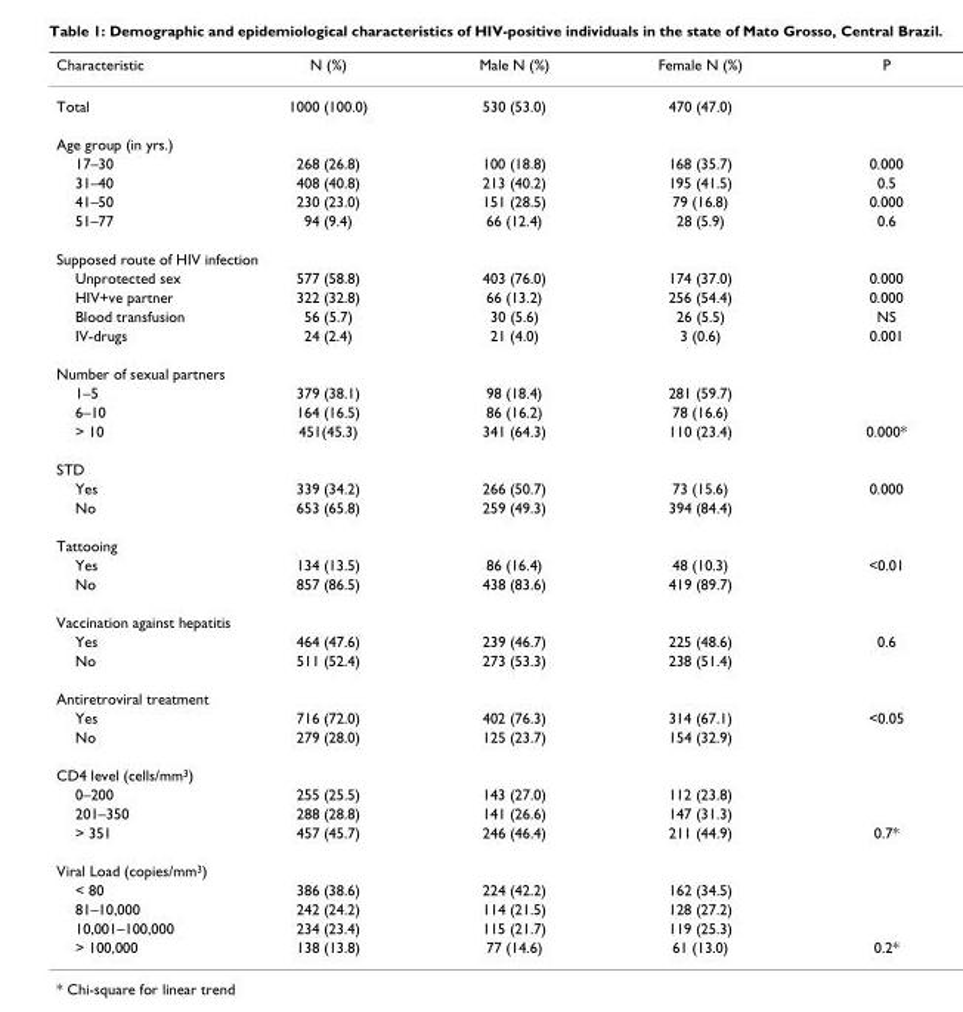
<table><thead><tr><td>Characteristic</td><td>N (%)</td><td>Male N (%)</td><td>Female N (%)</td><td>P</td></tr></thead><tbody><tr><td>Total</td><td>1000 (100.0)</td><td>530 (53.0)</td><td>470 (47.0)</td><td></td></tr><tr><td colspan="5">Age group (in yrs.)</td></tr><tr><td>17–30</td><td>268 (26.8)</td><td>100 (18.8)</td><td>168 (35.7)</td><td>0.000</td></tr><tr><td>31–40</td><td>408 (40.8)</td><td>213 (40.2)</td><td>195 (41.5)</td><td>0.5</td></tr><tr><td>41–50</td><td>230 (23.0)</td><td>151 (28.5)</td><td>79 (16.8)</td><td>0.000</td></tr><tr><td>51–77</td><td>94 (9.4)</td><td>66 (12.4)</td><td>28 (5.9)</td><td>0.6</td></tr><tr><td colspan="5">Supposed route of HIV infection</td></tr><tr><td>Unprotected sex</td><td>577 (58.8)</td><td>403 (76.0)</td><td>174 (37.0)</td><td>0.000</td></tr><tr><td>HIV+ve partner</td><td>322 (32.8)</td><td>66 (13.2)</td><td>256 (54.4)</td><td>0.000</td></tr><tr><td>Blood transfusion</td><td>56 (5.7)</td><td>30 (5.6)</td><td>26 (5.5)</td><td>NS</td></tr><tr><td>IV-drugs</td><td>24 (2.4)</td><td>21 (4.0)</td><td>3 (0.6)</td><td>0.001</td></tr><tr><td colspan="5">Number of sexual partners</td></tr><tr><td>1–5</td><td>379 (38.1)</td><td>98 (18.4)</td><td>281 (59.7)</td><td></td></tr><tr><td>6–10</td><td>164 (16.5)</td><td>86 (16.2)</td><td>78 (16.6)</td><td></td></tr><tr><td>&gt; 10</td><td>451(45.3)</td><td>341 (64.3)</td><td>110 (23.4)</td><td>0.000*</td></tr><tr><td colspan="5">STD</td></tr><tr><td>Yes</td><td>339 (34.2)</td><td>266 (50.7)</td><td>73 (15.6)</td><td>0.000</td></tr><tr><td>No</td><td>653 (65.8)</td><td>259 (49.3)</td><td>394 (84.4)</td><td></td></tr><tr><td colspan="5">Tattooing</td></tr><tr><td>Yes</td><td>134 (13.5)</td><td>86 (16.4)</td><td>48 (10.3)</td><td>&lt;0.01</td></tr><tr><td>No</td><td>857 (86.5)</td><td>438 (83.6)</td><td>419 (89.7)</td><td></td></tr><tr><td colspan="5">Vaccination against hepatitis</td></tr><tr><td>Yes</td><td>464 (47.6)</td><td>239 (46.7)</td><td>225 (48.6)</td><td>0.6</td></tr><tr><td>No</td><td>511 (52.4)</td><td>273 (53.3)</td><td>238 (51.4)</td><td></td></tr><tr><td colspan="5">Antiretroviral treatment</td></tr><tr><td>Yes</td><td>716 (72.0)</td><td>402 (76.3)</td><td>314 (67.1)</td><td>&lt;0.05</td></tr><tr><td>No</td><td>279 (28.0)</td><td>125 (23.7)</td><td>154 (32.9)</td><td></td></tr><tr><td colspan="5">CD4 level (cells/mm<sup>3</sup>)</td></tr><tr><td>0–200</td><td>255 (25.5)</td><td>143 (27.0)</td><td>112 (23.8)</td><td></td></tr><tr><td>201–350</td><td>288 (28.8)</td><td>141 (26.6)</td><td>147 (31.3)</td><td></td></tr><tr><td>&gt; 351</td><td>457 (45.7)</td><td>246 (46.4)</td><td>211 (44.9)</td><td>0.7*</td></tr><tr><td colspan="5">Viral Load (copies/mm<sup>3</sup>)</td></tr><tr><td>&lt; 80</td><td>386 (38.6)</td><td>224 (42.2)</td><td>162 (34.5)</td><td></td></tr><tr><td>81–10,000</td><td>242 (24.2)</td><td>114 (21.5)</td><td>128 (27.2)</td><td></td></tr><tr><td>10,001–100,000</td><td>234 (23.4)</td><td>115 (21.7)</td><td>119 (25.3)</td><td></td></tr><tr><td>&gt; 100,000</td><td>138 (13.8)</td><td>77 (14.6)</td><td>61 (13.0)</td><td>0.2*</td></tr></tbody></table>